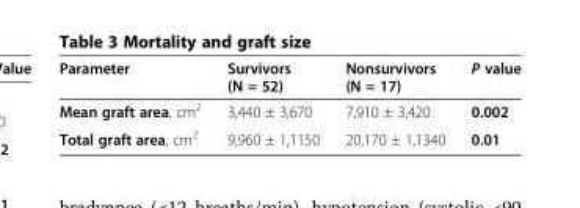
<table><thead><tr><td>Parameter</td><td>Survivors (N = 52)</td><td>Nonsurvivors (N = 17)</td><td>P value</td></tr></thead><tbody><tr><td>Mean graft area, cm<sup>2</sup></td><td>3,440 ± 3,670</td><td>7,910 ± 3,420</td><td>0.002</td></tr><tr><td>Total graft area, cm<sup>2</sup></td><td>9,960 ± 1,1150</td><td>20,170 ± 1,1340</td><td>0.01</td></tr></tbody></table>